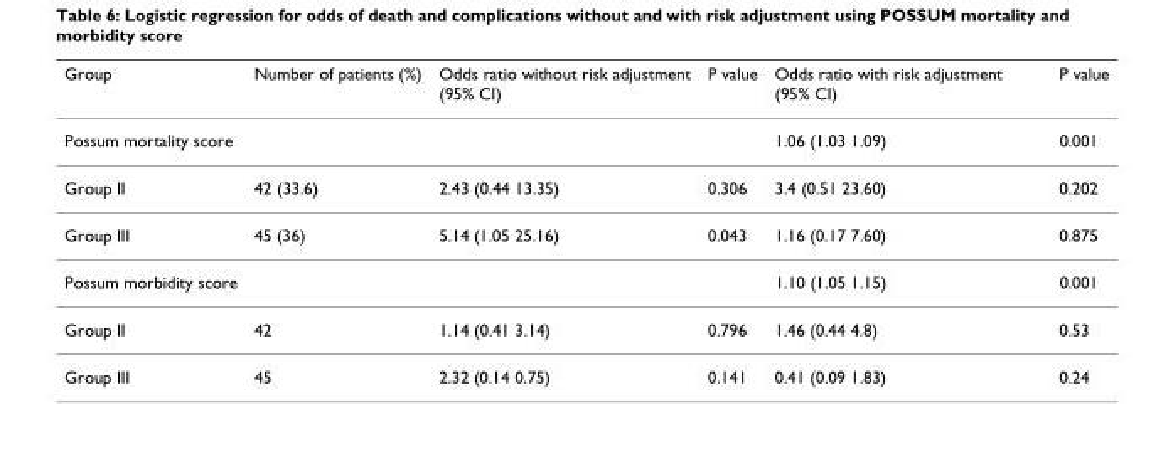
<table><thead><tr><td>Group</td><td>Number of patients (%)</td><td>Odds ratio without risk adjustment (95% CI)</td><td>P value</td><td>Odds ratio with risk adjustment (95% CI)</td><td>P value</td></tr></thead><tbody><tr><td>Possum mortality score</td><td></td><td></td><td></td><td>1.06 (1.03 1.09)</td><td>0.001</td></tr><tr><td>Group II</td><td>42 (33.6)</td><td>2.43 (0.44 13.35)</td><td>0.306</td><td>3.4 (0.51 23.60)</td><td>0.202</td></tr><tr><td>Group III</td><td>45 (36)</td><td>5.14 (1.05 25.16)</td><td>0.043</td><td>1.16 (0.17 7.60)</td><td>0.875</td></tr><tr><td>Possum morbidity score</td><td></td><td></td><td></td><td>1.10 (1.05 1.15)</td><td>0.001</td></tr><tr><td>Group II</td><td>42</td><td>1.14 (0.41 3.14)</td><td>0.796</td><td>1.46 (0.44 4.8)</td><td>0.53</td></tr><tr><td>Group III</td><td>45</td><td>2.32 (0.14 0.75)</td><td>0.141</td><td>0.41 (0.09 1.83)</td><td>0.24</td></tr></tbody></table>